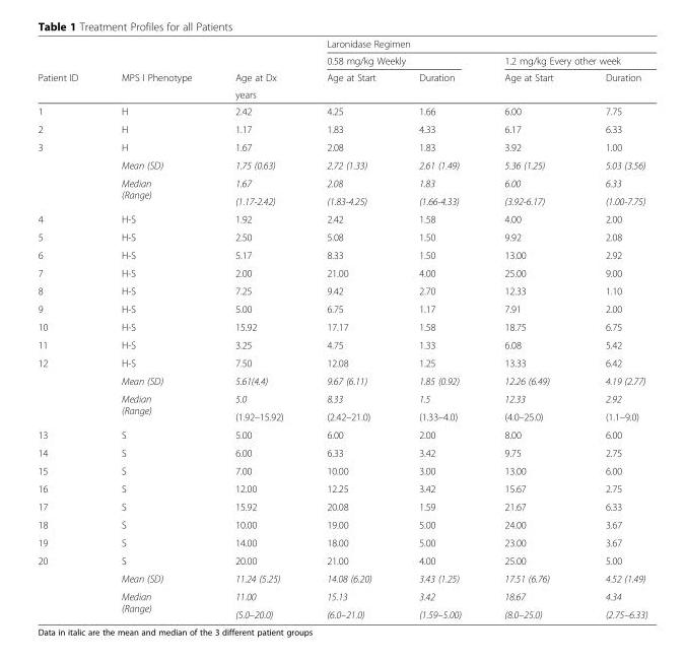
<table><thead><tr><td rowspan="4">Patient ID</td><td rowspan="4">MPS I Phenotype</td><td rowspan="3">Age at Dx</td><td colspan="4">Laronidase Regimen</td></tr><tr><td colspan="2">0.58 mg/kg Weekly</td><td colspan="2">1.2 mg/kg Every other week</td></tr><tr><td>Age at Start</td><td>Duration</td><td>Age at Start</td><td>Duration</td></tr><tr><td colspan="5">years</td></tr></thead><tbody><tr><td>1</td><td>H</td><td>2.42</td><td>4.25</td><td>1.66</td><td>6.00</td><td>7.75</td></tr><tr><td>2</td><td>H</td><td>1.17</td><td>1.83</td><td>4.33</td><td>6.17</td><td>6.33</td></tr><tr><td rowspan="4">3</td><td>H</td><td>1.67</td><td>2.08</td><td>1.83</td><td>3.92</td><td>1.00</td></tr><tr><td>Mean (SD)</td><td>1.75 (0.63)</td><td>2.72 (1.33)</td><td>2.61 (1.49)</td><td>5.36 (1.25)</td><td>5.03 (3.56)</td></tr><tr><td rowspan="2">Median (Range)</td><td>1.67</td><td>2.08</td><td>1.83</td><td>6.00</td><td>6.33</td></tr><tr><td>(1.17-2.42)</td><td>(1.83-4.25)</td><td>(1.66-4.33)</td><td>(3.92-6.17)</td><td>(1.00-7.75)</td></tr><tr><td>4</td><td>H-S</td><td>1.92</td><td>2.42</td><td>1.58</td><td>4.00</td><td>2.00</td></tr><tr><td>5</td><td>H-S</td><td>2.50</td><td>5.08</td><td>1.50</td><td>9.92</td><td>2.08</td></tr><tr><td>6</td><td>H-S</td><td>5.17</td><td>8.33</td><td>1.50</td><td>13.00</td><td>2.92</td></tr><tr><td>7</td><td>H-S</td><td>2.00</td><td>21.00</td><td>4.00</td><td>25.00</td><td>9.00</td></tr><tr><td>8</td><td>H-S</td><td>7.25</td><td>9.42</td><td>2.70</td><td>12.33</td><td>1.10</td></tr><tr><td>9</td><td>H-S</td><td>5.00</td><td>6.75</td><td>1.17</td><td>7.91</td><td>2.00</td></tr><tr><td>10</td><td>H-S</td><td>15.92</td><td>17.17</td><td>1.58</td><td>18.75</td><td>6.75</td></tr><tr><td>11</td><td>H-S</td><td>3.25</td><td>4.75</td><td>1.33</td><td>6.08</td><td>5.42</td></tr><tr><td rowspan="4">12</td><td>H-S</td><td>7.50</td><td>12.08</td><td>1.25</td><td>13.33</td><td>6.42</td></tr><tr><td>Mean (SD)</td><td>5.61(4.4)</td><td>9.67 (6.11)</td><td>1.85 (0.92)</td><td>12.26 (6.49)</td><td>4.19 (2.77)</td></tr><tr><td rowspan="2">Median (Range)</td><td>5.0</td><td>8.33</td><td>1.5</td><td>12.33</td><td>2.92</td></tr><tr><td>(1.92–15.92)</td><td>(2.42–21.0)</td><td>(1.33–4.0)</td><td>(4.0–25.0)</td><td>(1.1–9.0)</td></tr><tr><td>13</td><td>S</td><td>5.00</td><td>6.00</td><td>2.00</td><td>8.00</td><td>6.00</td></tr><tr><td>14</td><td>S</td><td>6.00</td><td>6.33</td><td>3.42</td><td>9.75</td><td>2.75</td></tr><tr><td>15</td><td>S</td><td>7.00</td><td>10.00</td><td>3.00</td><td>13.00</td><td>6.00</td></tr><tr><td>16</td><td>S</td><td>12.00</td><td>12.25</td><td>3.42</td><td>15.67</td><td>2.75</td></tr><tr><td>17</td><td>S</td><td>15.92</td><td>20.08</td><td>1.59</td><td>21.67</td><td>6.33</td></tr><tr><td>18</td><td>S</td><td>10.00</td><td>19.00</td><td>5.00</td><td>24.00</td><td>3.67</td></tr><tr><td>19</td><td>S</td><td>14.00</td><td>18.00</td><td>5.00</td><td>23.00</td><td>3.67</td></tr><tr><td rowspan="4">20</td><td>S</td><td>20.00</td><td>21.00</td><td>4.00</td><td>25.00</td><td>5.00</td></tr><tr><td>Mean (SD)</td><td>11.24 (5.25)</td><td>14.08 (6.20)</td><td>3.43 (1.25)</td><td>17.51 (6.76)</td><td>4.52 (1.49)</td></tr><tr><td rowspan="2">Median (Range)</td><td>11.00</td><td>15.13</td><td>3.42</td><td>18.67</td><td>4.34</td></tr><tr><td>(5.0–20.0)</td><td>(6.0–21.0)</td><td>(1.59–5.00)</td><td>(8.0–25.0)</td><td>(2.75–6.33)</td></tr></tbody></table>